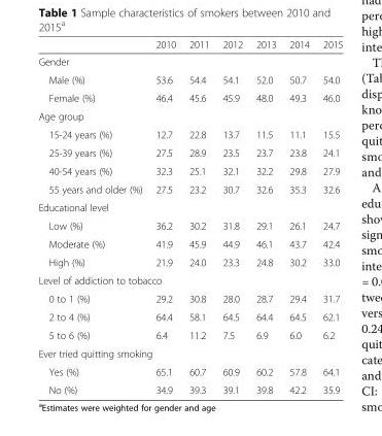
<table><thead><tr><td></td><td>2010</td><td>2011</td><td>2012</td><td>2013</td><td>2014</td><td>2015</td></tr></thead><tbody><tr><td colspan="7">Gender</td></tr><tr><td>Male (%)</td><td>53.6</td><td>54.4</td><td>54.1</td><td>52.0</td><td>50.7</td><td>54.0</td></tr><tr><td>Female (%)</td><td>46.4</td><td>45.6</td><td>45.9</td><td>48.0</td><td>49.3</td><td>46.0</td></tr><tr><td colspan="7">Age group</td></tr><tr><td>15-24 years (%)</td><td>12.7</td><td>22.8</td><td>13.7</td><td>11.5</td><td>11.1</td><td>15.5</td></tr><tr><td>25-39 years (%)</td><td>27.5</td><td>28.9</td><td>23.5</td><td>23.7</td><td>23.8</td><td>24.1</td></tr><tr><td>40-54 years (%)</td><td>32.3</td><td>25.1</td><td>32.1</td><td>32.2</td><td>29.8</td><td>27.9</td></tr><tr><td>55 years and older (%)</td><td>27.5</td><td>23.2</td><td>30.7</td><td>32.6</td><td>35.3</td><td>32.6</td></tr><tr><td colspan="7">Educational level</td></tr><tr><td>Low (%)</td><td>36.2</td><td>30.2</td><td>31.8</td><td>29.1</td><td>26.1</td><td>24.7</td></tr><tr><td>Moderate (%)</td><td>41.9</td><td>45.9</td><td>44.9</td><td>46.1</td><td>43.7</td><td>42.4</td></tr><tr><td>High (%)</td><td>21.9</td><td>24.0</td><td>23.3</td><td>24.8</td><td>30.2</td><td>33.0</td></tr><tr><td colspan="7">Level of addiction to tobacco</td></tr><tr><td>0 to 1 (%)</td><td>29.2</td><td>30.8</td><td>28.0</td><td>28.7</td><td>29.4</td><td>31.7</td></tr><tr><td>2 to 4 (%)</td><td>64.4</td><td>58.1</td><td>64.5</td><td>64.4</td><td>64.5</td><td>62.1</td></tr><tr><td>5 to 6 (%)</td><td>6.4</td><td>11.2</td><td>7.5</td><td>6.9</td><td>6.0</td><td>6.2</td></tr><tr><td colspan="7">Ever tried quitting smoking</td></tr><tr><td>Yes (%)</td><td>65.1</td><td>60.7</td><td>60.9</td><td>60.2</td><td>57.8</td><td>64.1</td></tr><tr><td>No (%)</td><td>34.9</td><td>39.3</td><td>39.1</td><td>39.8</td><td>42.2</td><td>35.9</td></tr></tbody></table>